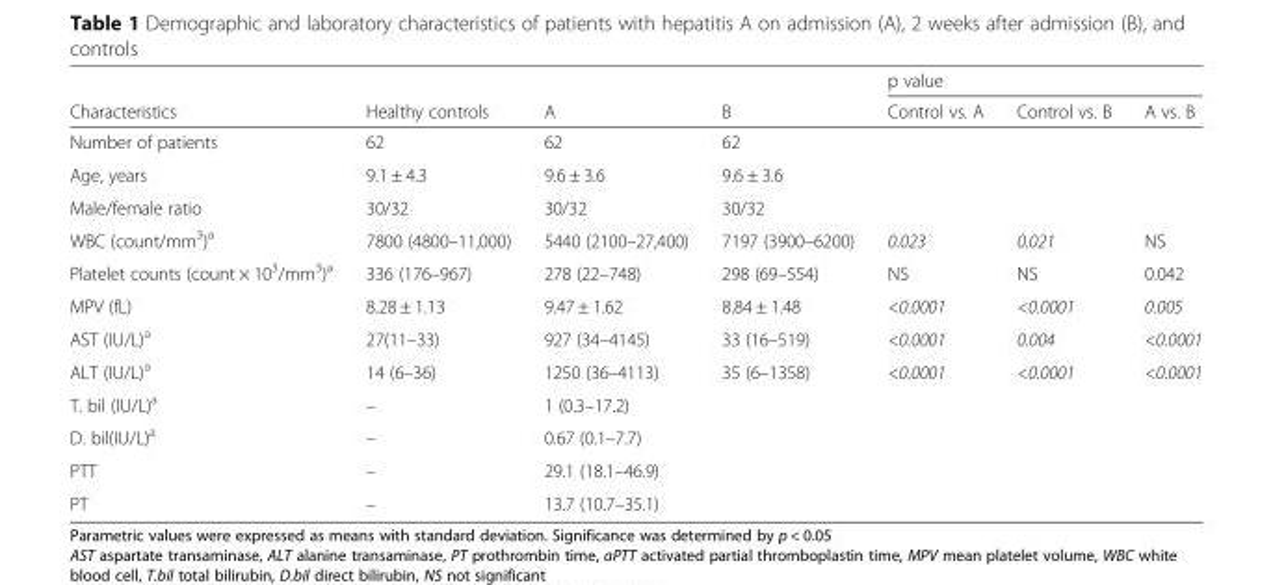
<table><thead><tr><td rowspan="2">Characteristics</td><td rowspan="2">Healthy controls</td><td rowspan="2">A</td><td rowspan="2">B</td><td colspan="3">p value</td></tr><tr><td>Control vs. A</td><td>Control vs. B</td><td>A vs. B</td></tr></thead><tbody><tr><td>Number of patients</td><td>62</td><td>62</td><td>62</td><td></td><td></td><td></td></tr><tr><td>Age, years</td><td>9.1 ± 4.3</td><td>9.6 ± 3.6</td><td>9.6 ± 3.6</td><td></td><td></td><td></td></tr><tr><td>Male/female ratio</td><td>30/32</td><td>30/32</td><td>30/32</td><td></td><td></td><td></td></tr><tr><td>WBC (count/mm<sup>3</sup>)<sup>a</sup></td><td>7800 (4800–11,000)</td><td>5440 (2100–27,400)</td><td>7197 (3900–6200)</td><td>0.023</td><td>0.021</td><td>NS</td></tr><tr><td>Platelet counts (count × 10<sup>3</sup>/mm<sup>3</sup>)<sup>a</sup></td><td>336 (176–967)</td><td>278 (22–748)</td><td>298 (69–554)</td><td>NS</td><td>NS</td><td>0.042</td></tr><tr><td>MPV (fL)</td><td>8.28 ± 1.13</td><td>9.47 ± 1.62</td><td>8.84 ± 1.48</td><td>&lt;0.0001</td><td>&lt;0.0001</td><td>0.005</td></tr><tr><td>AST (IU/L)<sup>a</sup></td><td>27(11–33)</td><td>927 (34–4145)</td><td>33 (16–519)</td><td>&lt;0.0001</td><td>0.004</td><td>&lt;0.0001</td></tr><tr><td>ALT (IU/L)<sup>a</sup></td><td>14 (6–36)</td><td>1250 (36–4113)</td><td>35 (6–1358)</td><td>&lt;0.0001</td><td>&lt;0.0001</td><td>&lt;0.0001</td></tr><tr><td>T. bil (IU/L)<sup>a</sup></td><td>–</td><td>1 (0.3–17.2)</td><td></td><td></td><td></td><td></td></tr><tr><td>D. bil(IU/L)<sup>a</sup></td><td>–</td><td>0.67 (0.1–7.7)</td><td></td><td></td><td></td><td></td></tr><tr><td>PTT</td><td>–</td><td>29.1 (18.1–46.9)</td><td></td><td></td><td></td><td></td></tr><tr><td>PT</td><td>–</td><td>13.7 (10.7–35.1)</td><td></td><td></td><td></td><td></td></tr></tbody></table>